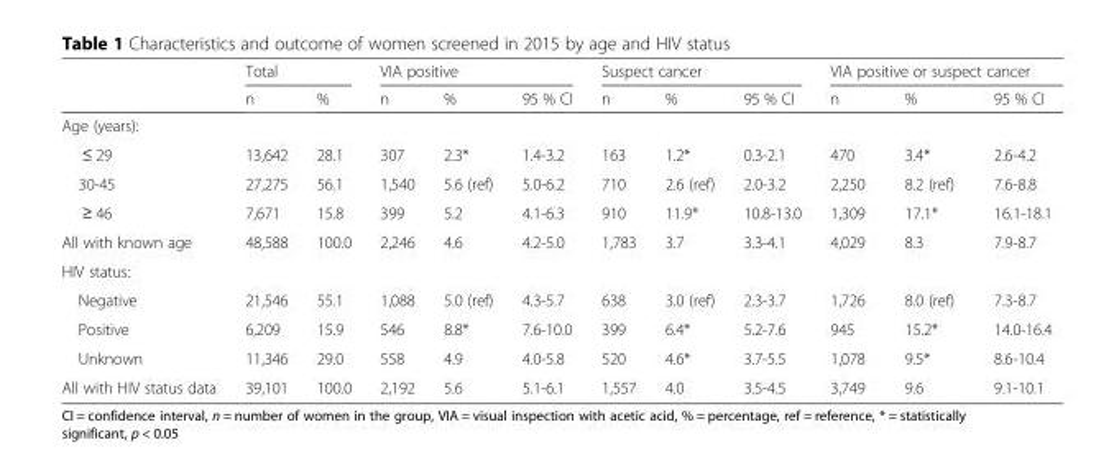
<table><thead><tr><td rowspan="2"></td><td colspan="2">Total</td><td colspan="3">VIA positive</td><td colspan="3">Suspect cancer</td><td colspan="3">VIA positive or suspect cancer</td></tr><tr><td>n</td><td>%</td><td>n</td><td>%</td><td>95 % CI</td><td>n</td><td>%</td><td>95 % CI</td><td>n</td><td>%</td><td>95 % CI</td></tr></thead><tbody><tr><td colspan="12">Age (years):</td></tr><tr><td>≤ 29</td><td>13,642</td><td>28.1</td><td>307</td><td>2.3*</td><td>1.4-3.2</td><td>163</td><td>1.2*</td><td>0.3-2.1</td><td>470</td><td>3.4*</td><td>2.6-4.2</td></tr><tr><td>30-45</td><td>27,275</td><td>56.1</td><td>1,540</td><td>5.6 (ref)</td><td>5.0-6.2</td><td>710</td><td>2.6 (ref)</td><td>2.0-3.2</td><td>2,250</td><td>8.2 (ref)</td><td>7.6-8.8</td></tr><tr><td>≥ 46</td><td>7,671</td><td>15.8</td><td>399</td><td>5.2</td><td>4.1-6.3</td><td>910</td><td>11.9*</td><td>10.8-13.0</td><td>1,309</td><td>17.1*</td><td>16.1-18.1</td></tr><tr><td>All with known age</td><td>48,588</td><td>100.0</td><td>2,246</td><td>4.6</td><td>4.2-5.0</td><td>1,783</td><td>3.7</td><td>3.3-4.1</td><td>4,029</td><td>8.3</td><td>7.9-8.7</td></tr><tr><td colspan="12">HIV status:</td></tr><tr><td>Negative</td><td>21,546</td><td>55.1</td><td>1,088</td><td>5.0 (ref)</td><td>4.3-5.7</td><td>638</td><td>3.0 (ref)</td><td>2.3-3.7</td><td>1,726</td><td>8.0 (ref)</td><td>7.3-8.7</td></tr><tr><td>Positive</td><td>6,209</td><td>15.9</td><td>546</td><td>8.8*</td><td>7.6-10.0</td><td>399</td><td>6.4*</td><td>5.2-7.6</td><td>945</td><td>15.2*</td><td>14.0-16.4</td></tr><tr><td>Unknown</td><td>11,346</td><td>29.0</td><td>558</td><td>4.9</td><td>4.0-5.8</td><td>520</td><td>4.6*</td><td>3.7-5.5</td><td>1,078</td><td>9.5*</td><td>8.6-10.4</td></tr><tr><td>All with HIV status data</td><td>39,101</td><td>100.0</td><td>2,192</td><td>5.6</td><td>5.1-6.1</td><td>1,557</td><td>4.0</td><td>3.5-4.5</td><td>3,749</td><td>9.6</td><td>9.1-10.1</td></tr></tbody></table>